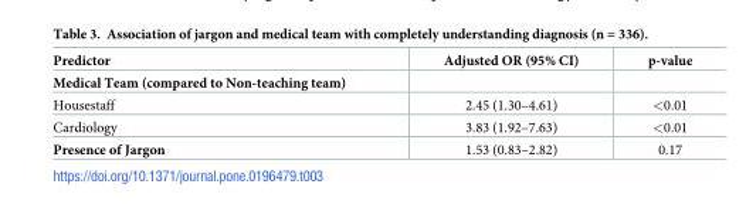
<table><thead><tr><td>Predictor</td><td>Adjusted OR (95% CI)</td><td>p-value</td></tr></thead><tbody><tr><td colspan="3">Medical Team (compared to Non-teaching team)</td></tr><tr><td>Housestaff</td><td>2.45 (1.30–4.61)</td><td>&lt;0.01</td></tr><tr><td>Cardiology</td><td>3.83 (1.92–7.63)</td><td>&lt;0.01</td></tr><tr><td>Presence of Jargon</td><td>1.53 (0.83–2.82)</td><td>0.17</td></tr></tbody></table>